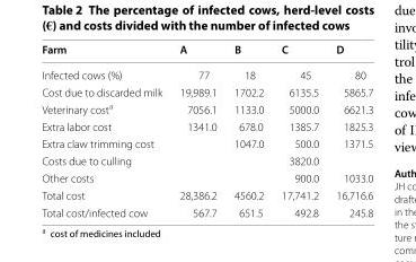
<table><thead><tr><td>Farm</td><td>A</td><td>B</td><td>C</td><td>D</td></tr></thead><tbody><tr><td>Infected cows (%)</td><td>77</td><td>18</td><td>45</td><td>80</td></tr><tr><td>Cost due to discarded milk</td><td>19,989.1</td><td>1702.2</td><td>6135.5</td><td>5865.7</td></tr><tr><td>Veterinary cost<sup>a</sup></td><td>7056.1</td><td>1133.0</td><td>5000.0</td><td>6621.3</td></tr><tr><td>Extra labor cost</td><td>1341.0</td><td>678.0</td><td>1385.7</td><td>1825.3</td></tr><tr><td>Extra claw trimming cost</td><td></td><td>1047.0</td><td>500.0</td><td>1371.5</td></tr><tr><td>Costs due to culling</td><td></td><td></td><td>3820.0</td><td></td></tr><tr><td>Other costs</td><td></td><td></td><td>900.0</td><td>1033.0</td></tr><tr><td>Total cost</td><td>28,386.2</td><td>4560.2</td><td>17,741.2</td><td>16,716.6</td></tr><tr><td>Total cost/infected cow</td><td>567.7</td><td>651.5</td><td>492.8</td><td>245.8</td></tr></tbody></table>